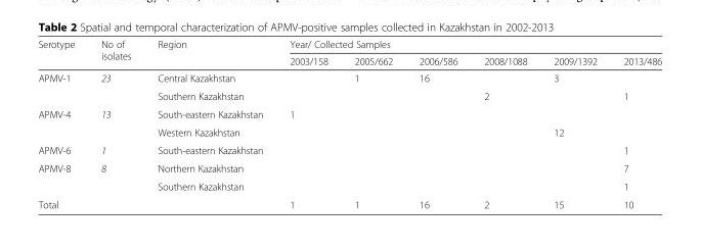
<table><thead><tr><td rowspan="2">Serotype</td><td rowspan="2">No of isolates</td><td rowspan="2">Region</td><td colspan="6">Year/ Collected Samples</td></tr><tr><td>2003/158</td><td>2005/662</td><td>2006/586</td><td>2008/1088</td><td>2009/1392</td><td>2013/486</td></tr></thead><tbody><tr><td rowspan="2">APMV-1</td><td>23</td><td>Central Kazakhstan</td><td></td><td>1</td><td>16</td><td></td><td>3</td><td></td></tr><tr><td></td><td>Southern Kazakhstan</td><td></td><td></td><td></td><td>2</td><td></td><td>1</td></tr><tr><td rowspan="2">APMV-4</td><td>13</td><td>South-eastern Kazakhstan</td><td>1</td><td></td><td></td><td></td><td></td><td></td></tr><tr><td></td><td>Western Kazakhstan</td><td></td><td></td><td></td><td></td><td>12</td><td></td></tr><tr><td>APMV-6</td><td>1</td><td>South-eastern Kazakhstan</td><td></td><td></td><td></td><td></td><td></td><td>1</td></tr><tr><td rowspan="2">APMV-8</td><td>8</td><td>Northern Kazakhstan</td><td></td><td></td><td></td><td></td><td></td><td>7</td></tr><tr><td></td><td>Southern Kazakhstan</td><td></td><td></td><td></td><td></td><td></td><td>1</td></tr><tr><td>Total</td><td></td><td></td><td>1</td><td>1</td><td>16</td><td>2</td><td>15</td><td>10</td></tr></tbody></table>